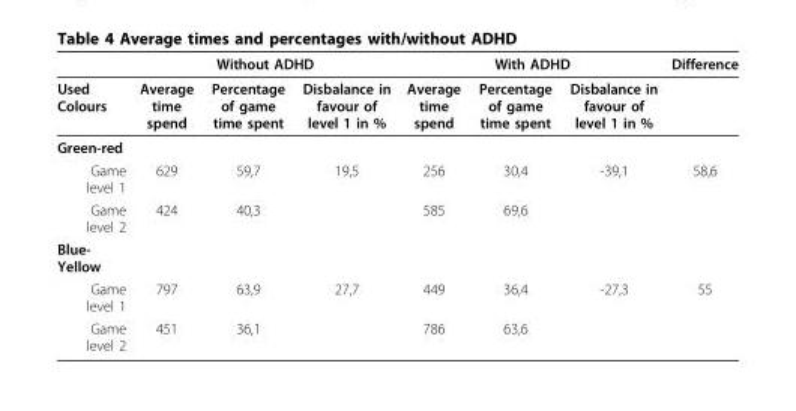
<table><thead><tr><td rowspan="2">Used Colours</td><td colspan="3">Without ADHD</td><td colspan="3">With ADHD</td><td rowspan="2">Difference</td></tr><tr><td>Average time spend</td><td>Percentage of game time spent</td><td>Disbalance in favour of level 1 in %</td><td>Average time spend</td><td>Percentage of game time spent</td><td>Disbalance in favour of level 1 in %</td></tr></thead><tbody><tr><td colspan="8">Green-red</td></tr><tr><td>Game level 1</td><td>629</td><td>59,7</td><td>19,5</td><td>256</td><td>30,4</td><td>-39,1</td><td>58,6</td></tr><tr><td>Game level 2</td><td>424</td><td>40,3</td><td></td><td>585</td><td>69,6</td><td></td><td></td></tr><tr><td colspan="8">Blue- Yellow</td></tr><tr><td>Game level 1</td><td>797</td><td>63,9</td><td>27,7</td><td>449</td><td>36,4</td><td>-27,3</td><td>55</td></tr><tr><td>Game level 2</td><td>451</td><td>36,1</td><td></td><td>786</td><td>63,6</td><td></td><td></td></tr></tbody></table>